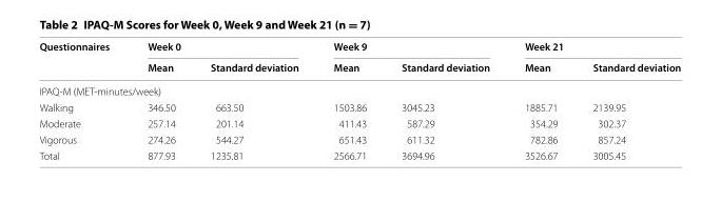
<table><thead><tr><td rowspan="2">Questionnaires</td><td colspan="2">Week 0</td><td colspan="2">Week 9</td><td colspan="2">Week 21</td></tr><tr><td>Mean</td><td>Standard deviation</td><td>Mean</td><td>Standard deviation</td><td>Mean</td><td>Standard deviation</td></tr></thead><tbody><tr><td colspan="7">IPAQ‑M (MET‑minutes/week)</td></tr><tr><td>Walking</td><td>346.50</td><td>663.50</td><td>1503.86</td><td>3045.23</td><td>1885.71</td><td>2139.95</td></tr><tr><td>Moderate</td><td>257.14</td><td>201.14</td><td>411.43</td><td>587.29</td><td>354.29</td><td>302.37</td></tr><tr><td>Vigorous</td><td>274.26</td><td>544.27</td><td>651.43</td><td>611.32</td><td>782.86</td><td>857.24</td></tr><tr><td>Total</td><td>877.93</td><td>1235.81</td><td>2566.71</td><td>3694.96</td><td>3526.67</td><td>3005.45</td></tr></tbody></table>